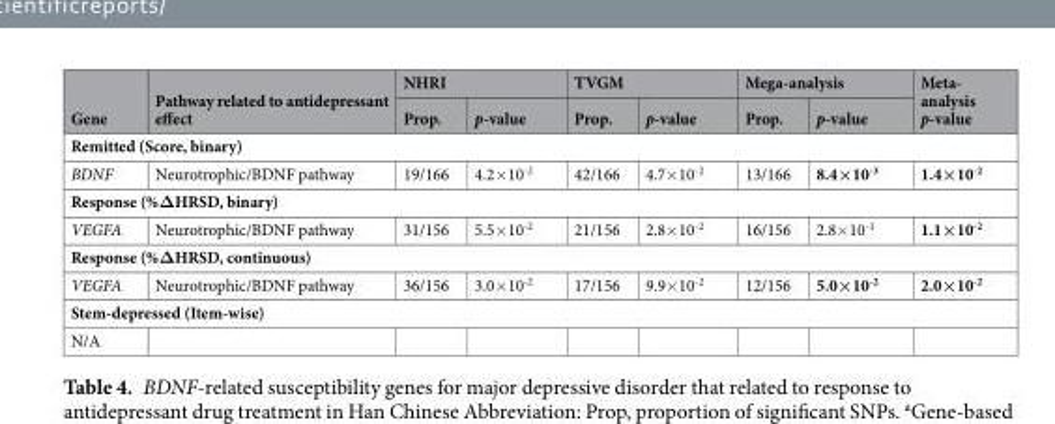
<table><thead><tr><td rowspan="2">Gene</td><td rowspan="2">Pathway related to antidepressant effect</td><td colspan="2">NHRI</td><td colspan="2">TVGM</td><td colspan="2">Mega-analysis</td><td rowspan="2">Meta- analysis p-value</td></tr><tr><td>Prop.</td><td>p-value</td><td>Prop.</td><td>p-value</td><td>Prop.</td><td>p-value</td></tr></thead><tbody><tr><td colspan="9">Remitted (Score, binary)</td></tr><tr><td>BDNF</td><td>Neurotrophic/BDNF pathway</td><td>19/166</td><td>4.2×10<sup>-2</sup></td><td>42/166</td><td>4.7×10<sup>-2</sup></td><td>13/166</td><td>8.4×10<sup>-3</sup></td><td>1.4×10<sup>-2</sup></td></tr><tr><td colspan="9">Response (%ΔHRSD, binary)</td></tr><tr><td>VEGFA</td><td>Neurotrophic/BDNF pathway</td><td>31/156</td><td>5.5×10<sup>-2</sup></td><td>21/156</td><td>2.8×10<sup>-2</sup></td><td>16/156</td><td>2.8×10<sup>-1</sup></td><td>1.1×10<sup>-2</sup></td></tr><tr><td colspan="9">Response (%ΔHRSD, continuous)</td></tr><tr><td>VEGFA</td><td>Neurotrophic/BDNF pathway</td><td>36/156</td><td>3.0×10<sup>-2</sup></td><td>17/156</td><td>9.9×10<sup>-2</sup></td><td>12/156</td><td>5.0×10<sup>-2</sup></td><td>2.0×10<sup>-2</sup></td></tr><tr><td colspan="9">Stem-depressed (Item-wise)</td></tr><tr><td>N/A</td><td></td><td></td><td></td><td></td><td></td><td></td><td></td><td></td></tr></tbody></table>